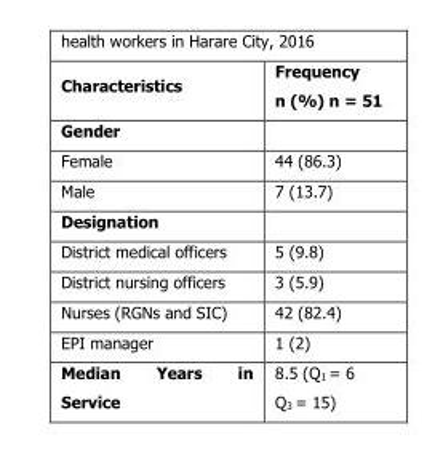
<table><thead><tr><td>Characteristics</td><td>Frequency n (%) n = 51</td></tr></thead><tbody><tr><td colspan="2">Gender</td></tr><tr><td>Female</td><td>44 (86.3)</td></tr><tr><td>Male</td><td>7 (13.7)</td></tr><tr><td colspan="2">Designation</td></tr><tr><td>District medical officers</td><td>5 (9.8)</td></tr><tr><td>District nursing officers</td><td>3 (5.9)</td></tr><tr><td>Nurses (RGNs and SIC)</td><td>42 (82.4)</td></tr><tr><td>EPI manager</td><td>1 (2)</td></tr><tr><td>Median Years in Service</td><td>8.5 (Q<sub>1</sub> = 6 Q<sub>3</sub> = 15)</td></tr></tbody></table>